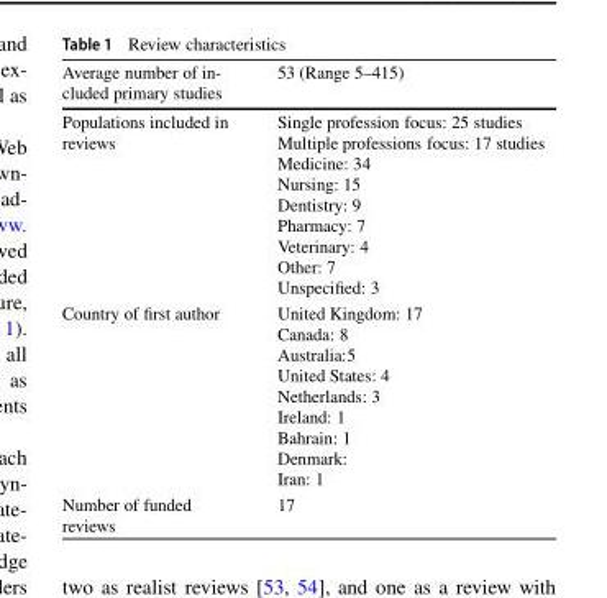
<table><thead><tr><td>Average number of in- cluded primary studies</td><td>53 (Range 5–415)</td></tr></thead><tbody><tr><td>Populations included in reviews</td><td>Single profession focus: 25 studies Multiple professions focus: 17 studies Medicine: 34 Nursing: 15 Dentistry: 9 Pharmacy: 7 Veterinary: 4 Other: 7 Unspecified: 3</td></tr><tr><td>Country of first author</td><td>United Kingdom: 17 Canada: 8 Australia:5 United States: 4 Netherlands: 3 Ireland: 1 Bahrain: 1 Denmark: Iran: 1</td></tr><tr><td>Number of funded reviews</td><td>17</td></tr></tbody></table>